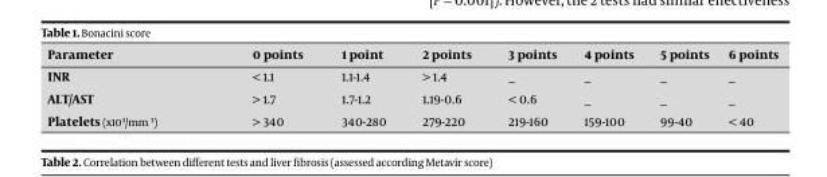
<table><thead><tr><td>Parameter</td><td>0 points</td><td>1 point</td><td>2 points</td><td>3 points</td><td>4 points</td><td>5 points</td><td>6 points</td></tr></thead><tbody><tr><td>INR</td><td>&lt; 1.1</td><td>1.1-1.4</td><td>&gt; 1.4</td><td>_</td><td>_</td><td>_</td><td>_</td></tr><tr><td>ALT/AST</td><td>&gt; 1.7</td><td>1.7-1.2</td><td>1.19-0.6</td><td>&lt; 0.6</td><td>_</td><td>_</td><td>_</td></tr><tr><td>Platelets (x10³/mm ³)</td><td>&gt; 340</td><td>340-280</td><td>279-220</td><td>219-160</td><td>159-100</td><td>99-40</td><td>&lt; 40</td></tr></tbody></table>